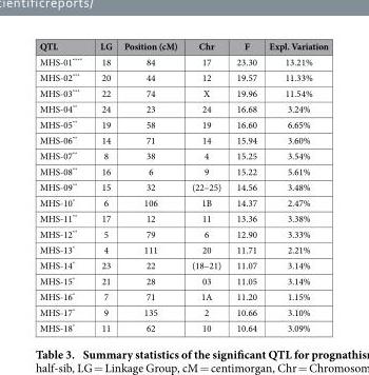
<table><thead><tr><td>QTL</td><td>LG</td><td>Position (cM)</td><td>Chr</td><td>F</td><td>Expl. Variation</td></tr></thead><tbody><tr><td>MHS-01****</td><td>18</td><td>84</td><td>17</td><td>23.30</td><td>13.21%</td></tr><tr><td>MHS-02***</td><td>20</td><td>44</td><td>12</td><td>19.57</td><td>11.33%</td></tr><tr><td>MHS-03***</td><td>22</td><td>74</td><td>X</td><td>19.96</td><td>11.54%</td></tr><tr><td>MHS-04**</td><td>24</td><td>23</td><td>24</td><td>16.68</td><td>3.24%</td></tr><tr><td>MHS-05**</td><td>19</td><td>58</td><td>19</td><td>16.60</td><td>6.65%</td></tr><tr><td>MHS-06**</td><td>14</td><td>71</td><td>14</td><td>15.94</td><td>3.60%</td></tr><tr><td>MHS-07**</td><td>8</td><td>38</td><td>4</td><td>15.25</td><td>3.54%</td></tr><tr><td>MHS-08**</td><td>16</td><td>6</td><td>9</td><td>15.22</td><td>5.61%</td></tr><tr><td>MHS-09**</td><td>15</td><td>32</td><td>(22–25)</td><td>14.56</td><td>3.48%</td></tr><tr><td>MHS-10*</td><td>6</td><td>106</td><td>1B</td><td>14.37</td><td>2.47%</td></tr><tr><td>MHS-11**</td><td>17</td><td>12</td><td>11</td><td>13.36</td><td>3.38%</td></tr><tr><td>MHS-12**</td><td>5</td><td>79</td><td>6</td><td>12.90</td><td>3.33%</td></tr><tr><td>MHS-13*</td><td>4</td><td>111</td><td>20</td><td>11.71</td><td>2.21%</td></tr><tr><td>MHS-14*</td><td>23</td><td>22</td><td>(18–21)</td><td>11.07</td><td>3.14%</td></tr><tr><td>MHS-15*</td><td>21</td><td>28</td><td>03</td><td>11.05</td><td>3.14%</td></tr><tr><td>MHS-16*</td><td>7</td><td>71</td><td>1A</td><td>11.20</td><td>1.15%</td></tr><tr><td>MHS-17*</td><td>9</td><td>135</td><td>2</td><td>10.66</td><td>3.10%</td></tr><tr><td>MHS-18*</td><td>11</td><td>62</td><td>10</td><td>10.64</td><td>3.09%</td></tr></tbody></table>